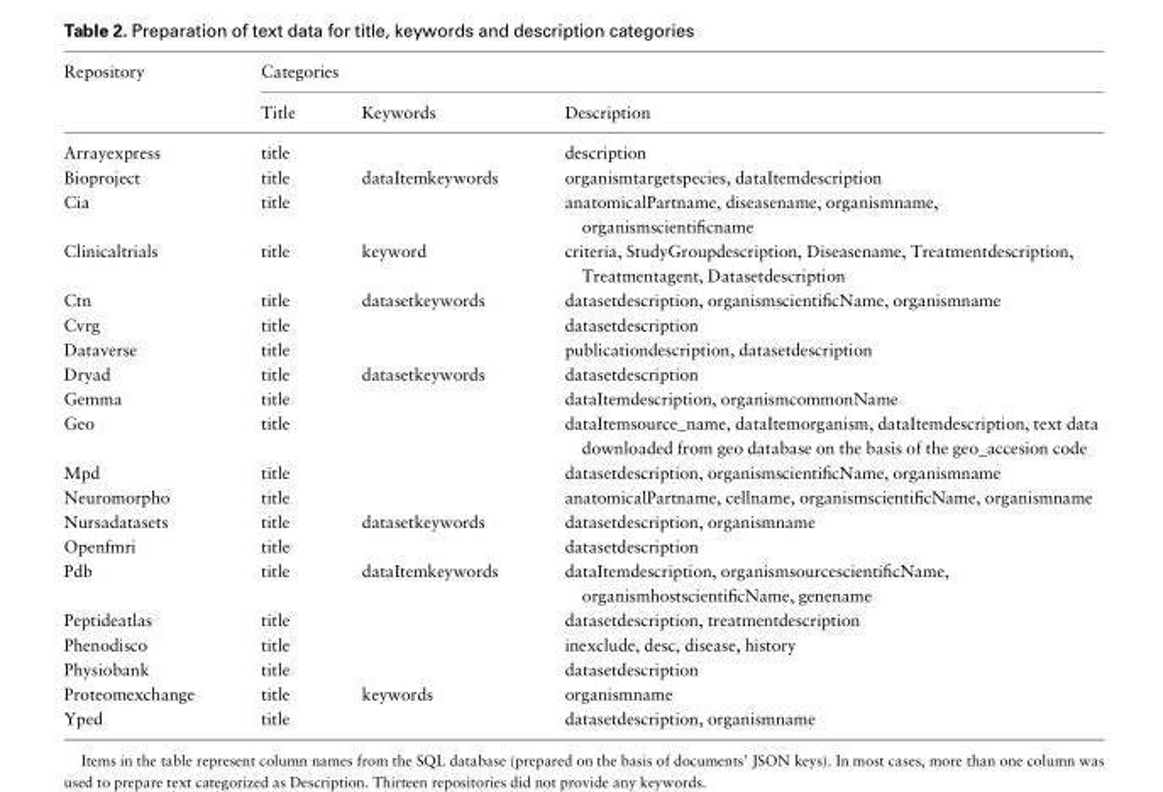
<table><thead><tr><td rowspan="2">Repository</td><td colspan="3">Categories</td></tr><tr><td>Title</td><td>Keywords</td><td>Description</td></tr></thead><tbody><tr><td>Arrayexpress</td><td>title</td><td></td><td>description</td></tr><tr><td>Bioproject</td><td>title</td><td>dataItemkeywords</td><td>organismtargetspecies, dataItemdescription</td></tr><tr><td>Cia</td><td>title</td><td></td><td>anatomicalPartname, diseasename, organismname, organismscientificname</td></tr><tr><td>Clinicaltrials</td><td>title</td><td>keyword</td><td>criteria, StudyGroupdescription, Diseasename, Treatmentdescription, Treatmentagent, Datasetdescription</td></tr><tr><td>Ctn</td><td>title</td><td>datasetkeywords</td><td>datasetdescription, organismscientificName, organismname</td></tr><tr><td>Cvrg</td><td>title</td><td></td><td>datasetdescription</td></tr><tr><td>Dataverse</td><td>title</td><td></td><td>publicationdescription, datasetdescription</td></tr><tr><td>Dryad</td><td>title</td><td>datasetkeywords</td><td>datasetdescription</td></tr><tr><td>Gemma</td><td>title</td><td></td><td>dataItemdescription, organismcommonName</td></tr><tr><td>Geo</td><td>title</td><td></td><td>dataItemsource_name, dataItemorganism, dataItemdescription, text data downloaded from geo database on the basis of the geo_accesion code</td></tr><tr><td>Mpd</td><td>title</td><td></td><td>datasetdescription, organismscientificName, organismname</td></tr><tr><td>Neuromorpho</td><td>title</td><td></td><td>anatomicalPartname, cellname, organismscientificName, organismname</td></tr><tr><td>Nursadatasets</td><td>title</td><td>datasetkeywords</td><td>datasetdescription, organismname</td></tr><tr><td>Openfmri</td><td>title</td><td></td><td>datasetdescription</td></tr><tr><td>Pdb</td><td>title</td><td>dataItemkeywords</td><td>dataItemdescription, organismsourcescientificName, organismhostscientificName, genename</td></tr><tr><td>Peptideatlas</td><td>title</td><td></td><td>datasetdescription, treatmentdescription</td></tr><tr><td>Phenodisco</td><td>title</td><td></td><td>inexclude, desc, disease, history</td></tr><tr><td>Physiobank</td><td>title</td><td></td><td>datasetdescription</td></tr><tr><td>Proteomexchange</td><td>title</td><td>keywords</td><td>organismname</td></tr><tr><td>Yped</td><td>title</td><td></td><td>datasetdescription, organismname</td></tr></tbody></table>